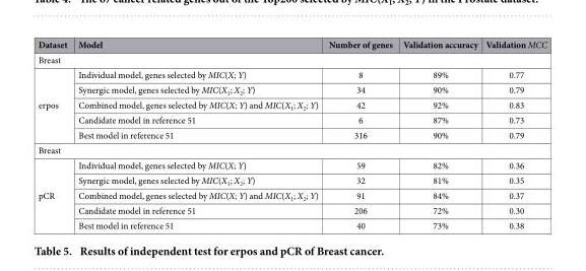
<table><thead><tr><td>Dataset</td><td>Model</td><td>Number of genes</td><td>Validation accuracy</td><td>Validation MCC</td></tr></thead><tbody><tr><td colspan="5">Breast</td></tr><tr><td rowspan="5">erpos</td><td>Individual model, genes selected by MIC(X; Y)</td><td>8</td><td>89%</td><td>0.77</td></tr><tr><td>Synergic model, genes selected by MIC(X<sub>1</sub>; X<sub>2</sub>; Y)</td><td>34</td><td>90%</td><td>0.79</td></tr><tr><td>Combined model, genes selected by MIC(X; Y) and MIC(X<sub>1</sub>; X<sub>2</sub>; Y)</td><td>42</td><td>92%</td><td>0.83</td></tr><tr><td>Candidate model in reference 51</td><td>6</td><td>87%</td><td>0.73</td></tr><tr><td>Best model in reference 51</td><td>316</td><td>90%</td><td>0.79</td></tr><tr><td colspan="5">Breast</td></tr><tr><td rowspan="5">pCR</td><td>Individual model, genes selected by MIC(X; Y)</td><td>59</td><td>82%</td><td>0.36</td></tr><tr><td>Synergic model, genes selected by MIC(X<sub>1</sub>; X<sub>2</sub>; Y)</td><td>32</td><td>81%</td><td>0.35</td></tr><tr><td>Combined model, genes selected by MIC(X; Y) and MIC(X<sub>1</sub>; X<sub>2</sub>; Y)</td><td>91</td><td>84%</td><td>0.37</td></tr><tr><td>Candidate model in reference 51</td><td>206</td><td>72%</td><td>0.30</td></tr><tr><td>Best model in reference 51</td><td>40</td><td>73%</td><td>0.38</td></tr></tbody></table>